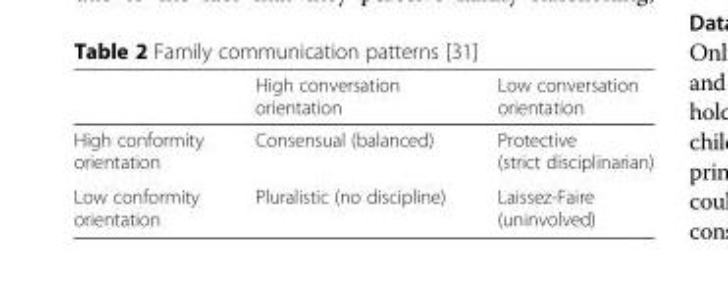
<table><thead><tr><td></td><td>High conversation orientation</td><td>Low conversation orientation</td></tr></thead><tbody><tr><td>High conformity orientation</td><td>Consensual (balanced)</td><td>Protective (strict disciplinarian)</td></tr><tr><td>Low conformity orientation</td><td>Pluralistic (no discipline)</td><td>Laissez-Faire (uninvolved)</td></tr></tbody></table>